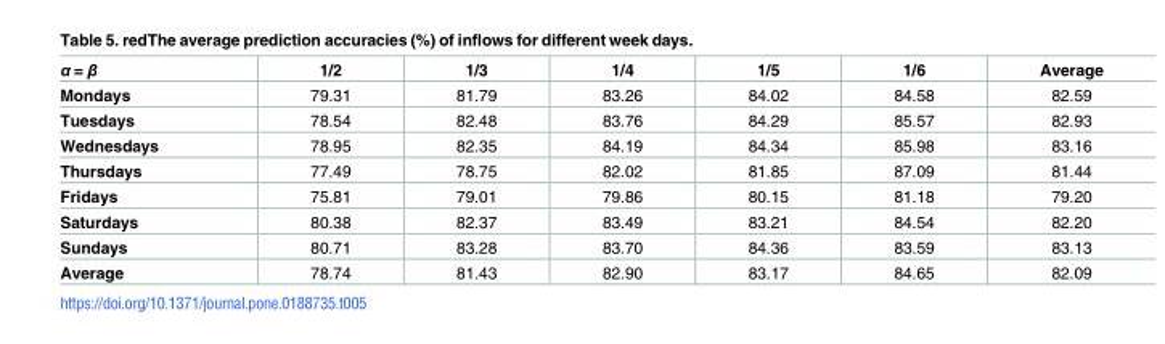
<table><thead><tr><td>α = β</td><td>1/2</td><td>1/3</td><td>1/4</td><td>1/5</td><td>1/6</td><td>Average</td></tr></thead><tbody><tr><td>Mondays</td><td>79.31</td><td>81.79</td><td>83.26</td><td>84.02</td><td>84.58</td><td>82.59</td></tr><tr><td>Tuesdays</td><td>78.54</td><td>82.48</td><td>83.76</td><td>84.29</td><td>85.57</td><td>82.93</td></tr><tr><td>Wednesdays</td><td>78.95</td><td>82.35</td><td>84.19</td><td>84.34</td><td>85.98</td><td>83.16</td></tr><tr><td>Thursdays</td><td>77.49</td><td>78.75</td><td>82.02</td><td>81.85</td><td>87.09</td><td>81.44</td></tr><tr><td>Fridays</td><td>75.81</td><td>79.01</td><td>79.86</td><td>80.15</td><td>81.18</td><td>79.20</td></tr><tr><td>Saturdays</td><td>80.38</td><td>82.37</td><td>83.49</td><td>83.21</td><td>84.54</td><td>82.20</td></tr><tr><td>Sundays</td><td>80.71</td><td>83.28</td><td>83.70</td><td>84.36</td><td>83.59</td><td>83.13</td></tr><tr><td>Average</td><td>78.74</td><td>81.43</td><td>82.90</td><td>83.17</td><td>84.65</td><td>82.09</td></tr></tbody></table>